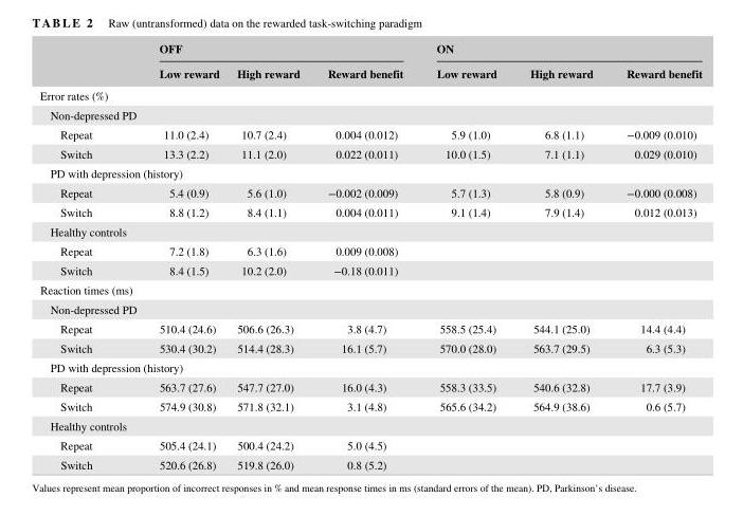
<table><thead><tr><td rowspan="2"></td><td colspan="3">OFF</td><td colspan="3">ON</td></tr><tr><td>Low reward</td><td>High reward</td><td>Reward benefit</td><td>Low reward</td><td>High reward</td><td>Reward benefit</td></tr></thead><tbody><tr><td colspan="7">Error rates (%)</td></tr><tr><td colspan="7">Non- depressed PD</td></tr><tr><td>Repeat</td><td>11.0 (2.4)</td><td>10.7 (2.4)</td><td>0.004 (0.012)</td><td>5.9 (1.0)</td><td>6.8 (1.1)</td><td>−0.009 (0.010)</td></tr><tr><td>Switch</td><td>13.3 (2.2)</td><td>11.1 (2.0)</td><td>0.022 (0.011)</td><td>10.0 (1.5)</td><td>7.1 (1.1)</td><td>0.029 (0.010)</td></tr><tr><td colspan="7">PD with depression (history)</td></tr><tr><td>Repeat</td><td>5.4 (0.9)</td><td>5.6 (1.0)</td><td>−0.002 (0.009)</td><td>5.7 (1.3)</td><td>5.8 (0.9)</td><td>−0.000 (0.008)</td></tr><tr><td>Switch</td><td>8.8 (1.2)</td><td>8.4 (1.1)</td><td>0.004 (0.011)</td><td>9.1 (1.4)</td><td>7.9 (1.4)</td><td>0.012 (0.013)</td></tr><tr><td colspan="7">Healthy controls</td></tr><tr><td>Repeat</td><td>7.2 (1.8)</td><td>6.3 (1.6)</td><td>0.009 (0.008)</td><td></td><td></td><td></td></tr><tr><td>Switch</td><td>8.4 (1.5)</td><td>10.2 (2.0)</td><td>−0.18 (0.011)</td><td></td><td></td><td></td></tr><tr><td colspan="7">Reaction times (ms)</td></tr><tr><td colspan="7">Non- depressed PD</td></tr><tr><td>Repeat</td><td>510.4 (24.6)</td><td>506.6 (26.3)</td><td>3.8 (4.7)</td><td>558.5 (25.4)</td><td>544.1 (25.0)</td><td>14.4 (4.4)</td></tr><tr><td>Switch</td><td>530.4 (30.2)</td><td>514.4 (28.3)</td><td>16.1 (5.7)</td><td>570.0 (28.0)</td><td>563.7 (29.5)</td><td>6.3 (5.3)</td></tr><tr><td colspan="7">PD with depression (history)</td></tr><tr><td>Repeat</td><td>563.7 (27.6)</td><td>547.7 (27.0)</td><td>16.0 (4.3)</td><td>558.3 (33.5)</td><td>540.6 (32.8)</td><td>17.7 (3.9)</td></tr><tr><td>Switch</td><td>574.9 (30.8)</td><td>571.8 (32.1)</td><td>3.1 (4.8)</td><td>565.6 (34.2)</td><td>564.9 (38.6)</td><td>0.6 (5.7)</td></tr><tr><td colspan="7">Healthy controls</td></tr><tr><td>Repeat</td><td>505.4 (24.1)</td><td>500.4 (24.2)</td><td>5.0 (4.5)</td><td></td><td></td><td></td></tr><tr><td>Switch</td><td>520.6 (26.8)</td><td>519.8 (26.0)</td><td>0.8 (5.2)</td><td></td><td></td><td></td></tr></tbody></table>